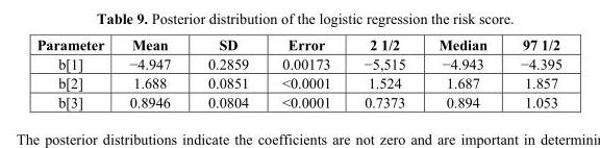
<table><thead><tr><td>Parameter</td><td>Mean</td><td>SD</td><td>Error</td><td>2 1/2</td><td>Median</td><td>97 1/2</td></tr></thead><tbody><tr><td>b[1]</td><td>−4.947</td><td>0.2859</td><td>0.00173</td><td>−5,515</td><td>−4.943</td><td>−4.395</td></tr><tr><td>b[2]</td><td>1.688</td><td>0.0851</td><td>&lt;0.0001</td><td>1.524</td><td>1.687</td><td>1.857</td></tr><tr><td>b[3]</td><td>0.8946</td><td>0.0804</td><td>&lt;0.0001</td><td>0.7373</td><td>0.894</td><td>1.053</td></tr></tbody></table>